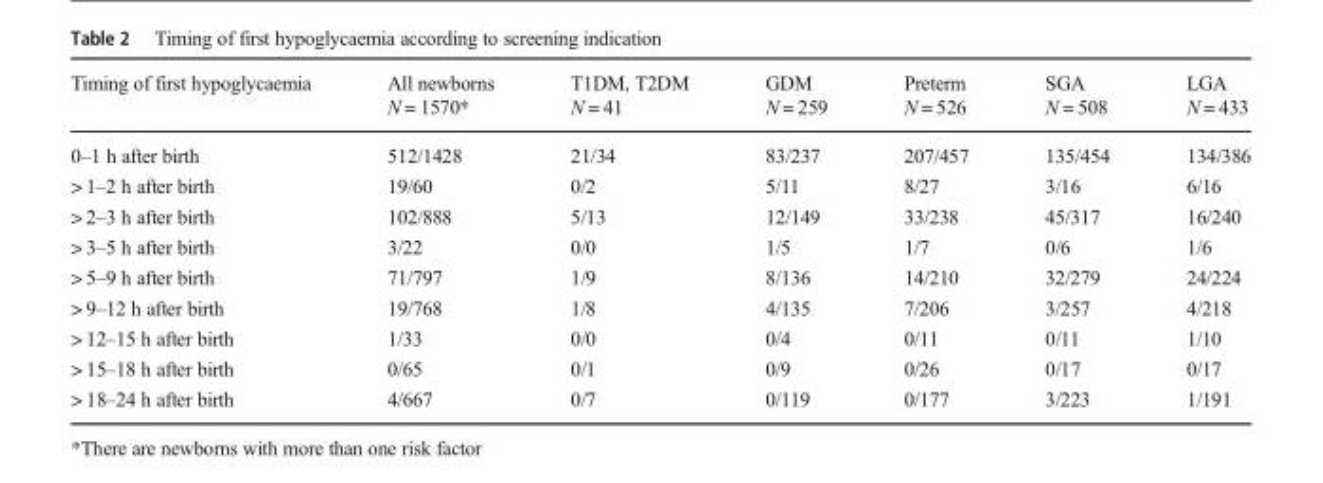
<table><thead><tr><td rowspan="2">Timing of first hypoglycaemia</td><td rowspan="2">All newborns N = 1570*</td><td rowspan="2">T1DM, T2DM N = 41</td><td rowspan="2">GDM N = 259</td><td rowspan="2">Preterm N = 526</td><td rowspan="2">SGA N = 508</td><td rowspan="2">LGA N = 433</td></tr><tr></tr></thead><tbody><tr><td>0–1 h after birth</td><td>512/1428</td><td>21/34</td><td>83/237</td><td>207/457</td><td>135/454</td><td>134/386</td></tr><tr><td>&gt; 1–2 h after birth</td><td>19/60</td><td>0/2</td><td>5/11</td><td>8/27</td><td>3/16</td><td>6/16</td></tr><tr><td>&gt; 2–3 h after birth</td><td>102/888</td><td>5/13</td><td>12/149</td><td>33/238</td><td>45/317</td><td>16/240</td></tr><tr><td>&gt; 3–5 h after birth</td><td>3/22</td><td>0/0</td><td>1/5</td><td>1/7</td><td>0/6</td><td>1/6</td></tr><tr><td>&gt; 5–9 h after birth</td><td>71/797</td><td>1/9</td><td>8/136</td><td>14/210</td><td>32/279</td><td>24/224</td></tr><tr><td>&gt; 9–12 h after birth</td><td>19/768</td><td>1/8</td><td>4/135</td><td>7/206</td><td>3/257</td><td>4/218</td></tr><tr><td>&gt; 12–15 h after birth</td><td>1/33</td><td>0/0</td><td>0/4</td><td>0/11</td><td>0/11</td><td>1/10</td></tr><tr><td>&gt; 15–18 h after birth</td><td>0/65</td><td>0/1</td><td>0/9</td><td>0/26</td><td>0/17</td><td>0/17</td></tr><tr><td>&gt; 18–24 h after birth</td><td>4/667</td><td>0/7</td><td>0/119</td><td>0/177</td><td>3/223</td><td>1/191</td></tr></tbody></table>